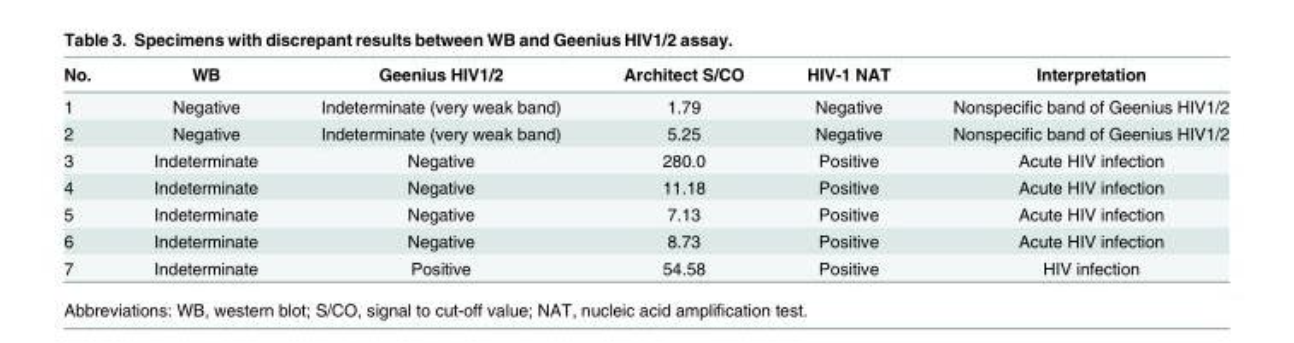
<table><thead><tr><td>No.</td><td>WB</td><td>Geenius HIV1/2</td><td>Architect S/CO</td><td>HIV-1 NAT</td><td>Interpretation</td></tr></thead><tbody><tr><td>1</td><td>Negative</td><td>Indeterminate (very weak band)</td><td>1.79</td><td>Negative</td><td>Nonspecific band of Geenius HIV1/2</td></tr><tr><td>2</td><td>Negative</td><td>Indeterminate (very weak band)</td><td>5.25</td><td>Negative</td><td>Nonspecific band of Geenius HIV1/2</td></tr><tr><td>3</td><td>Indeterminate</td><td>Negative</td><td>280.0</td><td>Positive</td><td>Acute HIV infection</td></tr><tr><td>4</td><td>Indeterminate</td><td>Negative</td><td>11.18</td><td>Positive</td><td>Acute HIV infection</td></tr><tr><td>5</td><td>Indeterminate</td><td>Negative</td><td>7.13</td><td>Positive</td><td>Acute HIV infection</td></tr><tr><td>6</td><td>Indeterminate</td><td>Negative</td><td>8.73</td><td>Positive</td><td>Acute HIV infection</td></tr><tr><td>7</td><td>Indeterminate</td><td>Positive</td><td>54.58</td><td>Positive</td><td>HIV infection</td></tr></tbody></table>